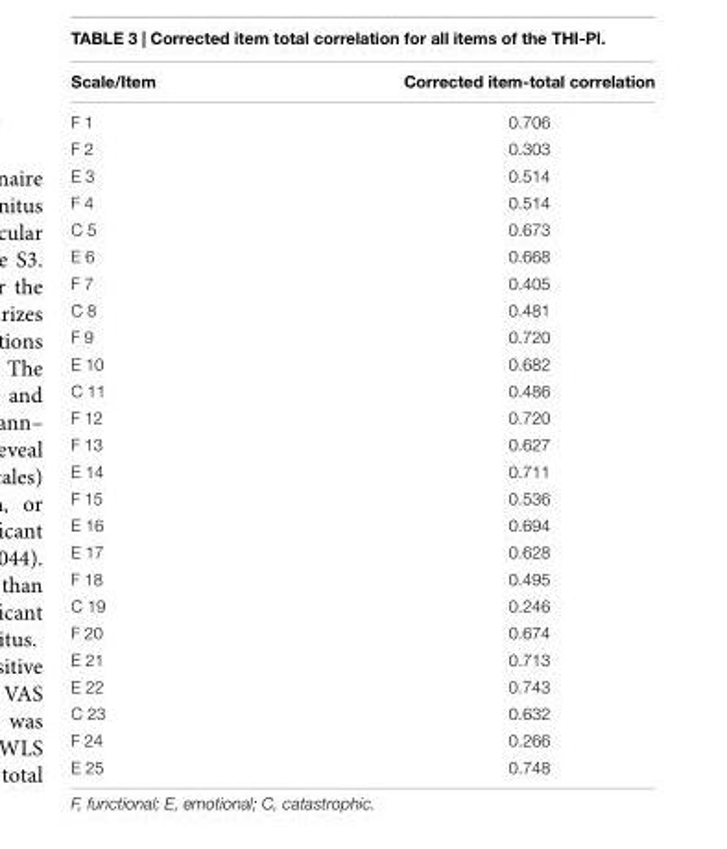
<table><thead><tr><td>Scale/Item</td><td>Corrected item-total correlation</td></tr></thead><tbody><tr><td>F 1</td><td>0.706</td></tr><tr><td>F 2</td><td>0.303</td></tr><tr><td>E 3</td><td>0.514</td></tr><tr><td>F 4</td><td>0.514</td></tr><tr><td>C 5</td><td>0.673</td></tr><tr><td>E 6</td><td>0.668</td></tr><tr><td>F 7</td><td>0.405</td></tr><tr><td>C 8</td><td>0.481</td></tr><tr><td>F 9</td><td>0.720</td></tr><tr><td>E 10</td><td>0.682</td></tr><tr><td>C 11</td><td>0.486</td></tr><tr><td>F 12</td><td>0.720</td></tr><tr><td>F 13</td><td>0.627</td></tr><tr><td>E 14</td><td>0.711</td></tr><tr><td>F 15</td><td>0.536</td></tr><tr><td>E 16</td><td>0.694</td></tr><tr><td>E 17</td><td>0.628</td></tr><tr><td>F 18</td><td>0.495</td></tr><tr><td>C 19</td><td>0.246</td></tr><tr><td>F 20</td><td>0.674</td></tr><tr><td>E 21</td><td>0.713</td></tr><tr><td>E 22</td><td>0.743</td></tr><tr><td>C 23</td><td>0.632</td></tr><tr><td>F 24</td><td>0.266</td></tr><tr><td>E 25</td><td>0.748</td></tr></tbody></table>